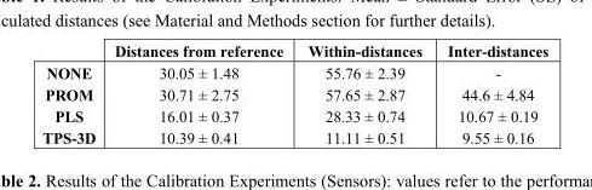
<table><thead><tr><td></td><td>Distances from reference</td><td>Within-distances</td><td>Inter-distances</td></tr></thead><tbody><tr><td>NONE</td><td>30.05 ± 1.48</td><td>55.76 ± 2.39</td><td>-</td></tr><tr><td>PROM</td><td>30.71 ± 2.75</td><td>57.65 ± 2.87</td><td>44.6 ± 4.84</td></tr><tr><td>PLS</td><td>16.01 ± 0.37</td><td>28.33 ± 0.74</td><td>10.67 ± 0.19</td></tr><tr><td>TPS-3D</td><td>10.39 ± 0.41</td><td>11.11 ± 0.51</td><td>9.55 ± 0.16</td></tr></tbody></table>